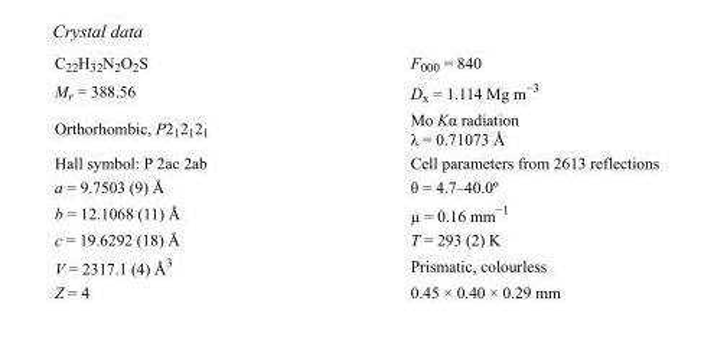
<table><tbody><tr><td>C<sub>22</sub>H<sub>32</sub>N<sub>2</sub>O<sub>2</sub>S</td><td>F000 = 840</td></tr><tr><td>M<sub>r</sub> = 388.56</td><td>D<sub>x</sub> = 1.114 Mg m<sup>−3</sup></td></tr><tr><td>Orthorhombic, P2<sub>1</sub>2<sub>1</sub>2<sub>1</sub></td><td>Mo Kα radiation λ = 0.71073 Å</td></tr><tr><td>Hall symbol: P 2ac 2ab</td><td>Cell parameters from 2613 reflections</td></tr><tr><td>a = 9.7503 (9) Å</td><td>θ = 4.7–40.0º</td></tr><tr><td>b = 12.1068 (11) Å</td><td>µ = 0.16 mm<sup>−1</sup></td></tr><tr><td>c = 19.6292 (18) Å</td><td>T = 293 (2) K</td></tr><tr><td>V = 2317.1 (4) Å<sup>3</sup></td><td>Prismatic, colourless</td></tr><tr><td>Z = 4</td><td>0.45 × 0.40 × 0.29 mm</td></tr></tbody></table>